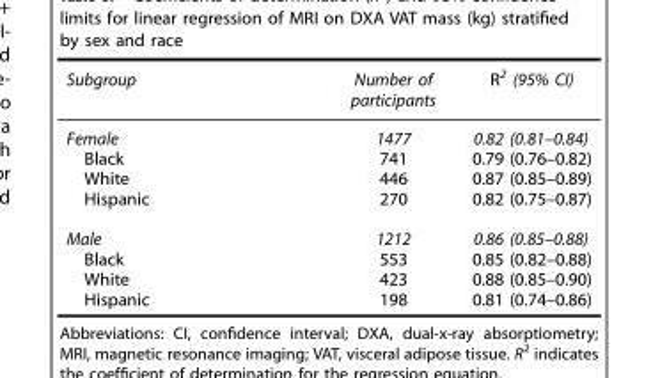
<table><thead><tr><td>Subgroup</td><td>Number of participants</td><td>R<sup>2</sup> (95% CI)</td></tr></thead><tbody><tr><td>Female</td><td>1477</td><td>0.82 (0.81–0.84)</td></tr><tr><td>Black</td><td>741</td><td>0.79 (0.76–0.82)</td></tr><tr><td>White</td><td>446</td><td>0.87 (0.85–0.89)</td></tr><tr><td>Hispanic</td><td>270</td><td>0.82 (0.75–0.87)</td></tr><tr><td>Male</td><td>1212</td><td>0.86 (0.85–0.88)</td></tr><tr><td>Black</td><td>553</td><td>0.85 (0.82–0.88)</td></tr><tr><td>White</td><td>423</td><td>0.88 (0.85–0.90)</td></tr><tr><td>Hispanic</td><td>198</td><td>0.81 (0.74–0.86)</td></tr></tbody></table>